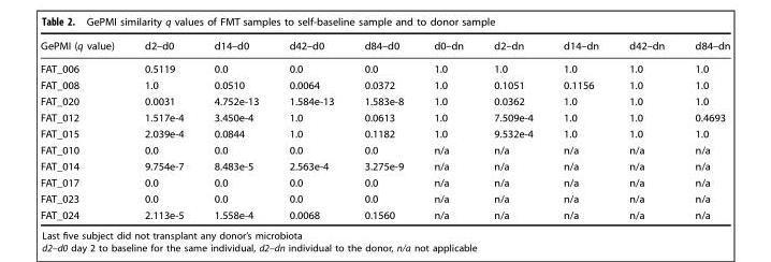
<table><thead><tr><td>GePMI (q value)</td><td>d2–d0</td><td>d14–d0</td><td>d42–d0</td><td>d84–d0</td><td>d0–dn</td><td>d2–dn</td><td>d14–dn</td><td>d42–dn</td><td>d84–dn</td></tr></thead><tbody><tr><td>FAT_006</td><td>0.5119</td><td>0.0</td><td>0.0</td><td>0.0</td><td>1.0</td><td>1.0</td><td>1.0</td><td>1.0</td><td>1.0</td></tr><tr><td>FAT_008</td><td>1.0</td><td>0.0510</td><td>0.0064</td><td>0.0372</td><td>1.0</td><td>0.1051</td><td>0.1156</td><td>1.0</td><td>1.0</td></tr><tr><td>FAT_020</td><td>0.0031</td><td>4.752e-13</td><td>1.584e-13</td><td>1.583e-8</td><td>1.0</td><td>0.0362</td><td>1.0</td><td>1.0</td><td>1.0</td></tr><tr><td>FAT_012</td><td>1.517e-4</td><td>3.450e-4</td><td>1.0</td><td>0.0613</td><td>1.0</td><td>7.509e-4</td><td>1.0</td><td>1.0</td><td>0.4693</td></tr><tr><td>FAT_015</td><td>2.039e-4</td><td>0.0844</td><td>1.0</td><td>0.1182</td><td>1.0</td><td>9.532e-4</td><td>1.0</td><td>1.0</td><td>1.0</td></tr><tr><td>FAT_010</td><td>0.0</td><td>0.0</td><td>0.0</td><td>0.0</td><td>n/a</td><td>n/a</td><td>n/a</td><td>n/a</td><td>n/a</td></tr><tr><td>FAT_014</td><td>9.754e-7</td><td>8.483e-5</td><td>2.563e-4</td><td>3.275e-9</td><td>n/a</td><td>n/a</td><td>n/a</td><td>n/a</td><td>n/a</td></tr><tr><td>FAT_017</td><td>0.0</td><td>0.0</td><td>0.0</td><td>0.0</td><td>n/a</td><td>n/a</td><td>n/a</td><td>n/a</td><td>n/a</td></tr><tr><td>FAT_023</td><td>0.0</td><td>0.0</td><td>0.0</td><td>0.0</td><td>n/a</td><td>n/a</td><td>n/a</td><td>n/a</td><td>n/a</td></tr><tr><td>FAT_024</td><td>2.113e-5</td><td>1.558e-4</td><td>0.0068</td><td>0.1560</td><td>n/a</td><td>n/a</td><td>n/a</td><td>n/a</td><td>n/a</td></tr></tbody></table>